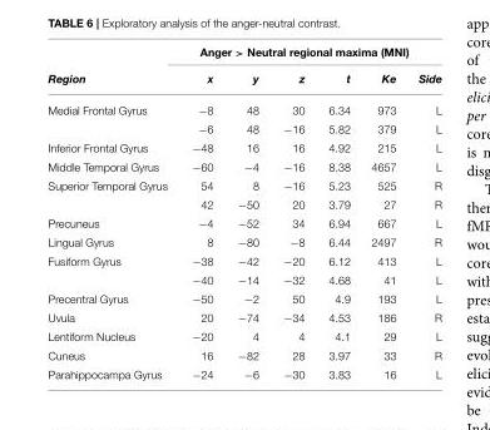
<table><thead><tr><td rowspan="2">Region</td><td colspan="6">Anger &gt; Neutral regional maxima (MNI)</td></tr><tr><td>x</td><td>y</td><td>z</td><td>t</td><td>Ke</td><td>Side</td></tr></thead><tbody><tr><td rowspan="2">Medial Frontal Gyrus</td><td>−8</td><td>48</td><td>30</td><td>6.34</td><td>973</td><td>L</td></tr><tr><td>−6</td><td>48</td><td>−16</td><td>5.82</td><td>379</td><td>L</td></tr><tr><td>Inferior Frontal Gyrus</td><td>−48</td><td>16</td><td>16</td><td>4.92</td><td>215</td><td>L</td></tr><tr><td>Middle Temporal Gyrus</td><td>−60</td><td>−4</td><td>−16</td><td>8.38</td><td>4657</td><td>L</td></tr><tr><td rowspan="2">Superior Temporal Gyrus</td><td>54</td><td>8</td><td>−16</td><td>5.23</td><td>525</td><td>R</td></tr><tr><td>42</td><td>−50</td><td>20</td><td>3.79</td><td>27</td><td>R</td></tr><tr><td>Precuneus</td><td>−4</td><td>−52</td><td>34</td><td>6.94</td><td>667</td><td>L</td></tr><tr><td>Lingual Gyrus</td><td>8</td><td>−80</td><td>−8</td><td>6.44</td><td>2497</td><td>R</td></tr><tr><td rowspan="2">Fusiform Gyrus</td><td>−38</td><td>−42</td><td>−20</td><td>6.12</td><td>413</td><td>L</td></tr><tr><td>−40</td><td>−14</td><td>−32</td><td>4.68</td><td>41</td><td>L</td></tr><tr><td>Precentral Gyrus</td><td>−50</td><td>−2</td><td>50</td><td>4.9</td><td>193</td><td>L</td></tr><tr><td>Uvula</td><td>20</td><td>−74</td><td>−34</td><td>4.53</td><td>186</td><td>R</td></tr><tr><td>Lentiform Nucleus</td><td>−20</td><td>4</td><td>4</td><td>4.1</td><td>29</td><td>L</td></tr><tr><td>Cuneus</td><td>16</td><td>−82</td><td>28</td><td>3.97</td><td>33</td><td>R</td></tr><tr><td>Parahippocampa Gyrus</td><td>−24</td><td>−6</td><td>−30</td><td>3.83</td><td>16</td><td>L</td></tr></tbody></table>